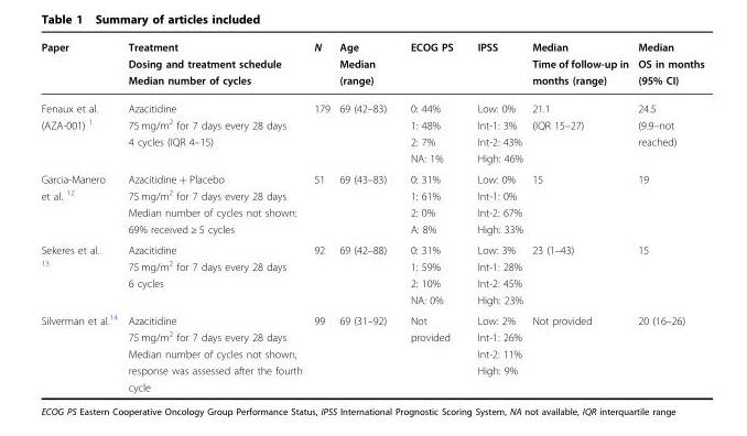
<table><thead><tr><td>Paper</td><td>Treatment Dosing and treatment schedule Median number of cycles</td><td>N</td><td>Age Median (range)</td><td>ECOG PS</td><td>IPSS</td><td>Median Time of follow-up in months (range)</td><td>Median OS in months (95% CI)</td></tr></thead><tbody><tr><td>Fenaux et al. (AZA-001) <sup>1</sup></td><td>Azacitidine 75 mg/m<sup>2</sup> for 7 days every 28 days 4 cycles (IQR 4–15)</td><td>179</td><td>69 (42–83)</td><td>0: 44% 1: 48% 2: 7% NA: 1%</td><td>Low: 0% Int-1: 3% Int-2: 43% High: 46%</td><td>21.1 (IQR 15–27)</td><td>24.5 (9.9–not reached)</td></tr><tr><td>Garcia-Manero et al. <sup>12</sup></td><td>Azacitidine + Placebo 75 mg/m<sup>2</sup> for 7 days every 28 days Median number of cycles not shown: 69% received ≥ 5 cycles</td><td>51</td><td>69 (43–83)</td><td>0: 31% 1: 61% 2: 0% A: 8%</td><td>Low: 0% Int-1: 0% Int-2: 67% High: 33%</td><td>15</td><td>19</td></tr><tr><td>Sekeres et al. <sup>13</sup></td><td>Azacitidine 75 mg/m<sup>2</sup> for 7 days every 28 days 6 cycles</td><td>92</td><td>69 (42–88)</td><td>0: 31% 1: 59% 2: 10% NA: 0%</td><td>Low: 3% Int-1: 28% Int-2: 45% High: 23%</td><td>23 (1–43)</td><td>15</td></tr><tr><td>Silverman et al.<sup>14</sup></td><td>Azacitidine 75 mg/m<sup>2</sup> for 7 days every 28 days Median number of cycles not shown, response was assessed after the fourth cycle</td><td>99</td><td>69 (31–92)</td><td>Not provided</td><td>Low: 2% Int-1: 26% Int-2: 11% High: 9%</td><td>Not provided</td><td>20 (16–26)</td></tr></tbody></table>